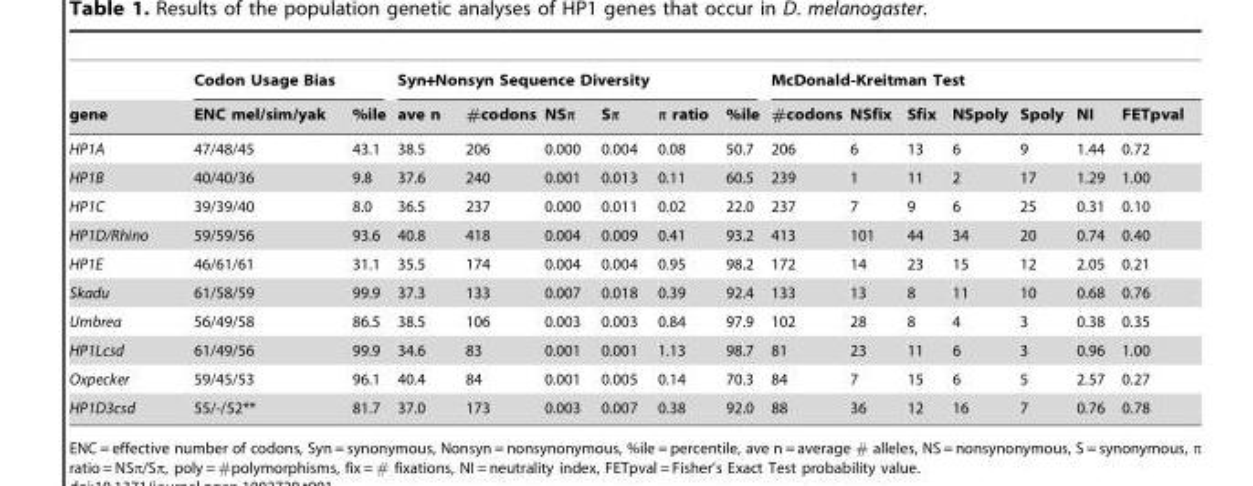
<table><thead><tr><td rowspan="2">gene</td><td colspan="2">Codon Usage Bias</td><td colspan="6">Syn+Nonsyn Sequence Diversity</td><td colspan="7">McDonald-Kreitman Test</td></tr><tr><td>ENC mel/sim/yak</td><td>%ile</td><td>ave n</td><td>#codons</td><td>NSπ</td><td>Sπ</td><td>π ratio</td><td>%ile</td><td>#codons</td><td>NSfix</td><td>Sfix</td><td>NSpoly</td><td>Spoly</td><td>NI</td><td>FETpval</td></tr></thead><tbody><tr><td>HP1A</td><td>47/48/45</td><td>43.1</td><td>38.5</td><td>206</td><td>0.000</td><td>0.004</td><td>0.08</td><td>50.7</td><td>206</td><td>6</td><td>13</td><td>6</td><td>9</td><td>1.44</td><td>0.72</td></tr><tr><td>HP1B</td><td>40/40/36</td><td>9.8</td><td>37.6</td><td>240</td><td>0.001</td><td>0.013</td><td>0.11</td><td>60.5</td><td>239</td><td>1</td><td>11</td><td>2</td><td>17</td><td>1.29</td><td>1.00</td></tr><tr><td>HP1C</td><td>39/39/40</td><td>8.0</td><td>36.5</td><td>237</td><td>0.000</td><td>0.011</td><td>0.02</td><td>22.0</td><td>237</td><td>7</td><td>9</td><td>6</td><td>25</td><td>0.31</td><td>0.10</td></tr><tr><td>HP1D/Rhino</td><td>59/59/56</td><td>93.6</td><td>40.8</td><td>418</td><td>0.004</td><td>0.009</td><td>0.41</td><td>93.2</td><td>413</td><td>101</td><td>44</td><td>34</td><td>20</td><td>0.74</td><td>0.40</td></tr><tr><td>HP1E</td><td>46/61/61</td><td>31.1</td><td>35.5</td><td>174</td><td>0.004</td><td>0.004</td><td>0.95</td><td>98.2</td><td>172</td><td>14</td><td>23</td><td>15</td><td>12</td><td>2.05</td><td>0.21</td></tr><tr><td>Skadu</td><td>61/58/59</td><td>99.9</td><td>37.3</td><td>133</td><td>0.007</td><td>0.018</td><td>0.39</td><td>92.4</td><td>133</td><td>13</td><td>8</td><td>11</td><td>10</td><td>0.68</td><td>0.76</td></tr><tr><td>Umbrea</td><td>56/49/58</td><td>86.5</td><td>38.5</td><td>106</td><td>0.003</td><td>0.003</td><td>0.84</td><td>97.9</td><td>102</td><td>28</td><td>8</td><td>4</td><td>3</td><td>0.38</td><td>0.35</td></tr><tr><td>HP1Lcsd</td><td>61/49/56</td><td>99.9</td><td>34.6</td><td>83</td><td>0.001</td><td>0.001</td><td>1.13</td><td>98.7</td><td>81</td><td>23</td><td>11</td><td>6</td><td>3</td><td>0.96</td><td>1.00</td></tr><tr><td>Oxpecker</td><td>59/45/53</td><td>96.1</td><td>40.4</td><td>84</td><td>0.001</td><td>0.005</td><td>0.14</td><td>70.3</td><td>84</td><td>7</td><td>15</td><td>6</td><td>5</td><td>2.57</td><td>0.27</td></tr><tr><td>HP1D3csd</td><td>55/-/52**</td><td>81.7</td><td>37.0</td><td>173</td><td>0.003</td><td>0.007</td><td>0.38</td><td>92.0</td><td>88</td><td>36</td><td>12</td><td>16</td><td>7</td><td>0.76</td><td>0.78</td></tr></tbody></table>